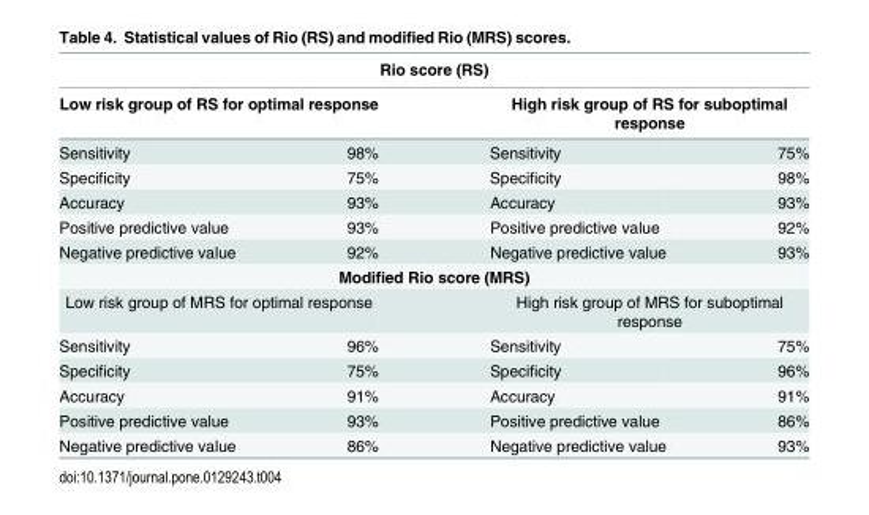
<table><thead><tr><td colspan="4">Rio score (RS)</td></tr><tr><td colspan="2">Low risk group of RS for optimal response</td><td colspan="2">High risk group of RS for suboptimal response</td></tr><tr><td>Sensitivity</td><td>98%</td><td>Sensitivity</td><td>75%</td></tr></thead><tbody><tr><td>Specificity</td><td>75%</td><td>Specificity</td><td>98%</td></tr><tr><td>Accuracy</td><td>93%</td><td>Accuracy</td><td>93%</td></tr><tr><td>Positive predictive value</td><td>93%</td><td>Positive predictive value</td><td>92%</td></tr><tr><td>Negative predictive value</td><td>92%</td><td>Negative predictive value</td><td>93%</td></tr><tr><td colspan="4">Modified Rio score (MRS)</td></tr><tr><td colspan="2">Low risk group of MRS for optimal response</td><td colspan="2">High risk group of MRS for suboptimal response</td></tr><tr><td>Sensitivity</td><td>96%</td><td>Sensitivity</td><td>75%</td></tr><tr><td>Specificity</td><td>75%</td><td>Specificity</td><td>96%</td></tr><tr><td>Accuracy</td><td>91%</td><td>Accuracy</td><td>91%</td></tr><tr><td>Positive predictive value</td><td>93%</td><td>Positive predictive value</td><td>86%</td></tr><tr><td>Negative predictive value</td><td>86%</td><td>Negative predictive value</td><td>93%</td></tr></tbody></table>